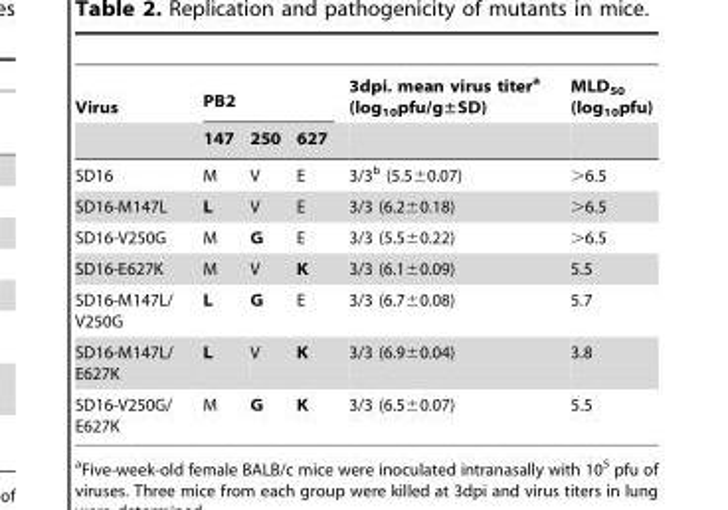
<table><thead><tr><td rowspan="2">Virus</td><td colspan="3">PB2</td><td rowspan="2">3dpi. mean virus titer<sup>a</sup> (log<sub>10</sub>pfu/g±SD)</td><td rowspan="2">MLD<sub>50</sub> (log<sub>10</sub>pfu)</td></tr><tr><td>147</td><td>250</td><td>627</td></tr></thead><tbody><tr><td>SD16</td><td>M</td><td>V</td><td>E</td><td>3/3<sup>b</sup> (5.5±0.07)</td><td>&gt;6.5</td></tr><tr><td>SD16-M147L</td><td>L</td><td>V</td><td>E</td><td>3/3 (6.2±0.18)</td><td>&gt;6.5</td></tr><tr><td>SD16-V250G</td><td>M</td><td>G</td><td>E</td><td>3/3 (5.5±0.22)</td><td>&gt;6.5</td></tr><tr><td>SD16-E627K</td><td>M</td><td>V</td><td>K</td><td>3/3 (6.1±0.09)</td><td>5.5</td></tr><tr><td>SD16-M147L/ V250G</td><td>L</td><td>G</td><td>E</td><td>3/3 (6.7±0.08)</td><td>5.7</td></tr><tr><td>SD16-M147L/ E627K</td><td>L</td><td>V</td><td>K</td><td>3/3 (6.9±0.04)</td><td>3.8</td></tr><tr><td>SD16-V250G/ E627K</td><td>M</td><td>G</td><td>K</td><td>3/3 (6.5±0.07)</td><td>5.5</td></tr></tbody></table>